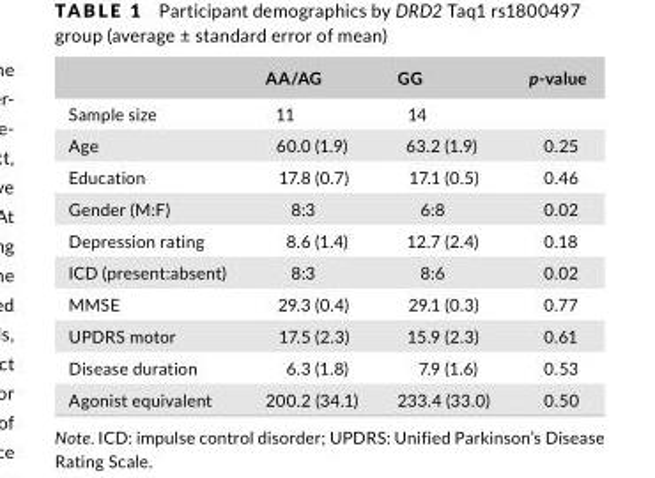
<table><thead><tr><td></td><td>AA/AG</td><td>GG</td><td>p- value</td></tr></thead><tbody><tr><td>Sample size</td><td>11</td><td>14</td><td></td></tr><tr><td>Age</td><td>60.0 (1.9)</td><td>63.2 (1.9)</td><td>0.25</td></tr><tr><td>Education</td><td>17.8 (0.7)</td><td>17.1 (0.5)</td><td>0.46</td></tr><tr><td>Gender (M:F)</td><td>8:3</td><td>6:8</td><td>0.02</td></tr><tr><td>Depression rating</td><td>8.6 (1.4)</td><td>12.7 (2.4)</td><td>0.18</td></tr><tr><td>ICD (present:absent)</td><td>8:3</td><td>8:6</td><td>0.02</td></tr><tr><td>MMSE</td><td>29.3 (0.4)</td><td>29.1 (0.3)</td><td>0.77</td></tr><tr><td>UPDRS motor</td><td>17.5 (2.3)</td><td>15.9 (2.3)</td><td>0.61</td></tr><tr><td>Disease duration</td><td>6.3 (1.8)</td><td>7.9 (1.6)</td><td>0.53</td></tr><tr><td>Agonist equivalent</td><td>200.2 (34.1)</td><td>233.4 (33.0)</td><td>0.50</td></tr></tbody></table>